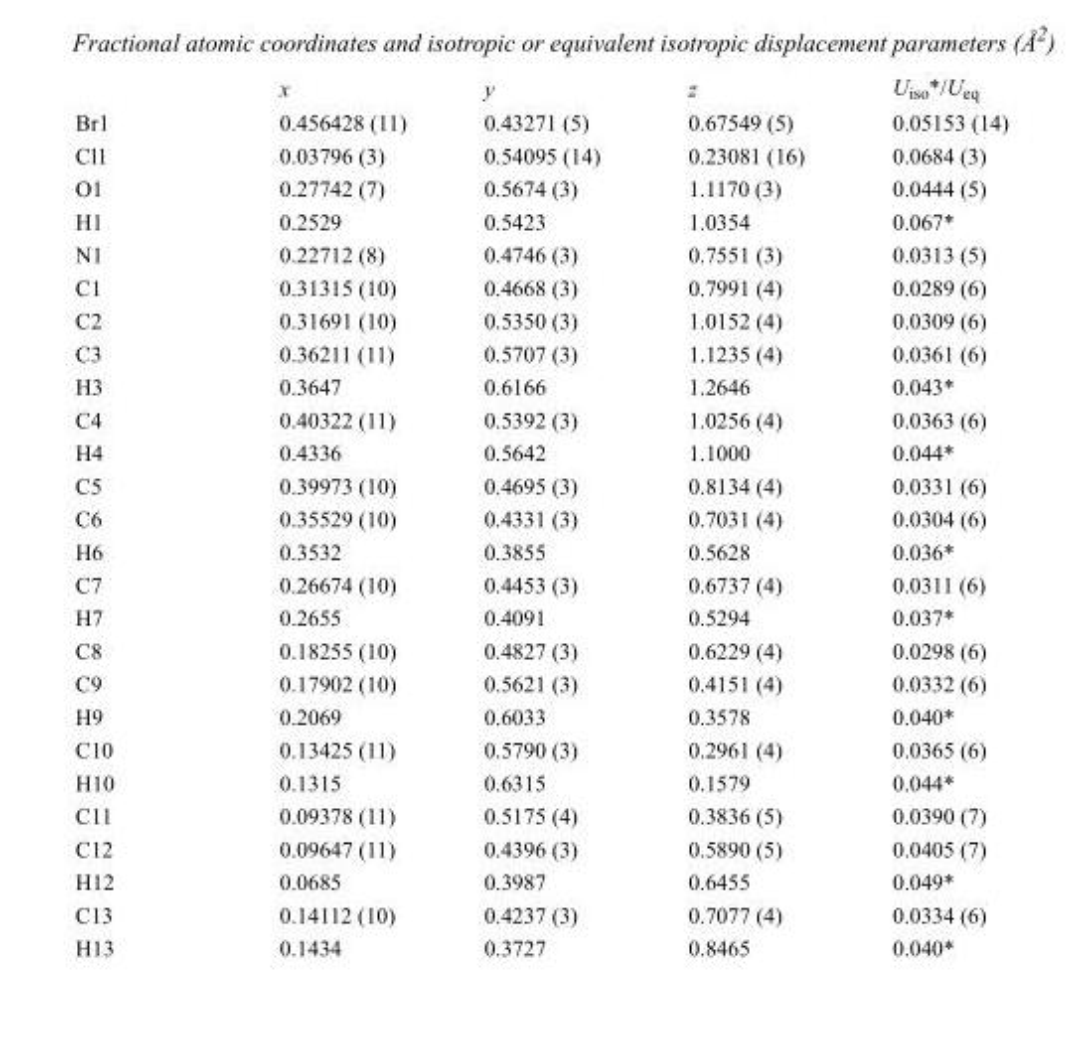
<table><thead><tr><td></td><td>x</td><td>y</td><td>z</td><td>U<sub>iso</sub>*/U<sub>eq</sub></td></tr></thead><tbody><tr><td>Br1</td><td>0.456428 (11)</td><td>0.43271 (5)</td><td>0.67549 (5)</td><td>0.05153 (14)</td></tr><tr><td>Cl1</td><td>0.03796 (3)</td><td>0.54095 (14)</td><td>0.23081 (16)</td><td>0.0684 (3)</td></tr><tr><td>O1</td><td>0.27742 (7)</td><td>0.5674 (3)</td><td>1.1170 (3)</td><td>0.0444 (5)</td></tr><tr><td>H1</td><td>0.2529</td><td>0.5423</td><td>1.0354</td><td>0.067*</td></tr><tr><td>N1</td><td>0.22712 (8)</td><td>0.4746 (3)</td><td>0.7551 (3)</td><td>0.0313 (5)</td></tr><tr><td>C1</td><td>0.31315 (10)</td><td>0.4668 (3)</td><td>0.7991 (4)</td><td>0.0289 (6)</td></tr><tr><td>C2</td><td>0.31691 (10)</td><td>0.5350 (3)</td><td>1.0152 (4)</td><td>0.0309 (6)</td></tr><tr><td>C3</td><td>0.36211 (11)</td><td>0.5707 (3)</td><td>1.1235 (4)</td><td>0.0361 (6)</td></tr><tr><td>H3</td><td>0.3647</td><td>0.6166</td><td>1.2646</td><td>0.043*</td></tr><tr><td>C4</td><td>0.40322 (11)</td><td>0.5392 (3)</td><td>1.0256 (4)</td><td>0.0363 (6)</td></tr><tr><td>H4</td><td>0.4336</td><td>0.5642</td><td>1.1000</td><td>0.044*</td></tr><tr><td>C5</td><td>0.39973 (10)</td><td>0.4695 (3)</td><td>0.8134 (4)</td><td>0.0331 (6)</td></tr><tr><td>C6</td><td>0.35529 (10)</td><td>0.4331 (3)</td><td>0.7031 (4)</td><td>0.0304 (6)</td></tr><tr><td>H6</td><td>0.3532</td><td>0.3855</td><td>0.5628</td><td>0.036*</td></tr><tr><td>C7</td><td>0.26674 (10)</td><td>0.4453 (3)</td><td>0.6737 (4)</td><td>0.0311 (6)</td></tr><tr><td>H7</td><td>0.2655</td><td>0.4091</td><td>0.5294</td><td>0.037*</td></tr><tr><td>C8</td><td>0.18255 (10)</td><td>0.4827 (3)</td><td>0.6229 (4)</td><td>0.0298 (6)</td></tr><tr><td>C9</td><td>0.17902 (10)</td><td>0.5621 (3)</td><td>0.4151 (4)</td><td>0.0332 (6)</td></tr><tr><td>H9</td><td>0.2069</td><td>0.6033</td><td>0.3578</td><td>0.040*</td></tr><tr><td>C10</td><td>0.13425 (11)</td><td>0.5790 (3)</td><td>0.2961 (4)</td><td>0.0365 (6)</td></tr><tr><td>H10</td><td>0.1315</td><td>0.6315</td><td>0.1579</td><td>0.044*</td></tr><tr><td>C11</td><td>0.09378 (11)</td><td>0.5175 (4)</td><td>0.3836 (5)</td><td>0.0390 (7)</td></tr><tr><td>C12</td><td>0.09647 (11)</td><td>0.4396 (3)</td><td>0.5890 (5)</td><td>0.0405 (7)</td></tr><tr><td>H12</td><td>0.0685</td><td>0.3987</td><td>0.6455</td><td>0.049*</td></tr><tr><td>C13</td><td>0.14112 (10)</td><td>0.4237 (3)</td><td>0.7077 (4)</td><td>0.0334 (6)</td></tr><tr><td>H13</td><td>0.1434</td><td>0.3727</td><td>0.8465</td><td>0.040*</td></tr></tbody></table>